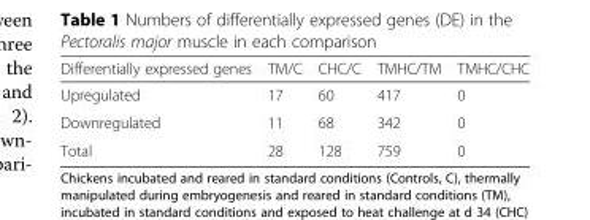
<table><thead><tr><td>Differentially expressed genes</td><td>TM/C</td><td>CHC/C</td><td>TMHC/TM</td><td>TMHC/CHC</td></tr></thead><tbody><tr><td>Upregulated</td><td>17</td><td>60</td><td>417</td><td>0</td></tr><tr><td>Downregulated</td><td>11</td><td>68</td><td>342</td><td>0</td></tr><tr><td>Total</td><td>28</td><td>128</td><td>759</td><td>0</td></tr></tbody></table>